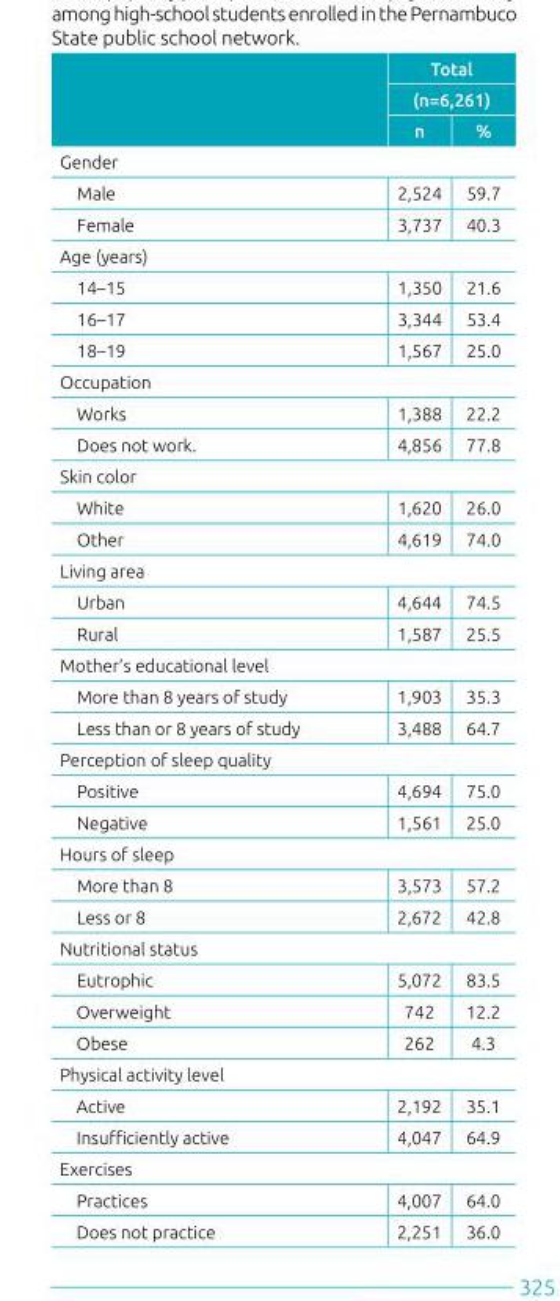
<table><thead><tr><td rowspan="3"></td><td rowspan="2" colspan="2">Total (n=6,261)</td></tr><tr></tr><tr><td>n</td><td>%</td></tr></thead><tbody><tr><td colspan="3">Gender</td></tr><tr><td>Male</td><td>2,524</td><td>59.7</td></tr><tr><td>Female</td><td>3,737</td><td>40.3</td></tr><tr><td colspan="3">Age (years)</td></tr><tr><td>14–15</td><td>1,350</td><td>21.6</td></tr><tr><td>16–17</td><td>3,344</td><td>53.4</td></tr><tr><td>18–19</td><td>1,567</td><td>25.0</td></tr><tr><td colspan="3">Occupation</td></tr><tr><td>Works</td><td>1,388</td><td>22.2</td></tr><tr><td>Does not work.</td><td>4,856</td><td>77.8</td></tr><tr><td colspan="3">Skin color</td></tr><tr><td>White</td><td>1,620</td><td>26.0</td></tr><tr><td>Other</td><td>4,619</td><td>74.0</td></tr><tr><td colspan="3">Living area</td></tr><tr><td>Urban</td><td>4,644</td><td>74.5</td></tr><tr><td>Rural</td><td>1,587</td><td>25.5</td></tr><tr><td colspan="3">Mother’s educational level</td></tr><tr><td>More than 8 years of study</td><td>1,903</td><td>35.3</td></tr><tr><td>Less than or 8 years of study</td><td>3,488</td><td>64.7</td></tr><tr><td colspan="3">Perception of sleep quality</td></tr><tr><td>Positive</td><td>4,694</td><td>75.0</td></tr><tr><td>Negative</td><td>1,561</td><td>25.0</td></tr><tr><td colspan="3">Hours of sleep</td></tr><tr><td>More than 8</td><td>3,573</td><td>57.2</td></tr><tr><td>Less or 8</td><td>2,672</td><td>42.8</td></tr><tr><td colspan="3">Nutritional status</td></tr><tr><td>Eutrophic</td><td>5,072</td><td>83.5</td></tr><tr><td>Overweight</td><td>742</td><td>12.2</td></tr><tr><td>Obese</td><td>262</td><td>4.3</td></tr><tr><td colspan="3">Physical activity level</td></tr><tr><td>Active</td><td>2,192</td><td>35.1</td></tr><tr><td>Insufficiently active</td><td>4,047</td><td>64.9</td></tr><tr><td colspan="3">Exercises</td></tr><tr><td>Practices</td><td>4,007</td><td>64.0</td></tr><tr><td>Does not practice</td><td>2,251</td><td>36.0</td></tr></tbody></table>